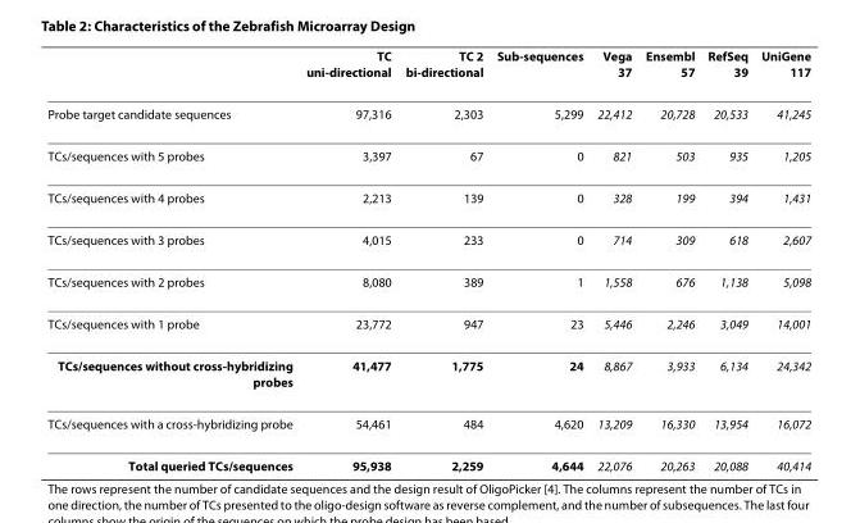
<table><thead><tr><td></td><td>TC uni-directional</td><td>TC 2 bi-directional</td><td>Sub-sequences</td><td>Vega 37</td><td>Ensembl 57</td><td>RefSeq 39</td><td>UniGene 117</td></tr></thead><tbody><tr><td>Probe target candidate sequences</td><td>97,316</td><td>2,303</td><td>5,299</td><td>22,412</td><td>20,728</td><td>20,533</td><td>41,245</td></tr><tr><td>TCs/sequences with 5 probes</td><td>3,397</td><td>67</td><td>0</td><td>821</td><td>503</td><td>935</td><td>1,205</td></tr><tr><td>TCs/sequences with 4 probes</td><td>2,213</td><td>139</td><td>0</td><td>328</td><td>199</td><td>394</td><td>1,431</td></tr><tr><td>TCs/sequences with 3 probes</td><td>4,015</td><td>233</td><td>0</td><td>714</td><td>309</td><td>618</td><td>2,607</td></tr><tr><td>TCs/sequences with 2 probes</td><td>8,080</td><td>389</td><td>1</td><td>1,558</td><td>676</td><td>1,138</td><td>5,098</td></tr><tr><td>TCs/sequences with 1 probe</td><td>23,772</td><td>947</td><td>23</td><td>5,446</td><td>2,246</td><td>3,049</td><td>14,001</td></tr><tr><td>TCs/sequences without cross-hybridizing probes</td><td>41,477</td><td>1,775</td><td>24</td><td>8,867</td><td>3,933</td><td>6,134</td><td>24,342</td></tr><tr><td>TCs/sequences with a cross-hybridizing probe</td><td>54,461</td><td>484</td><td>4,620</td><td>13,209</td><td>16,330</td><td>13,954</td><td>16,072</td></tr><tr><td>Total queried TCs/sequences</td><td>95,938</td><td>2,259</td><td>4,644</td><td>22,076</td><td>20,263</td><td>20,088</td><td>40,414</td></tr></tbody></table>